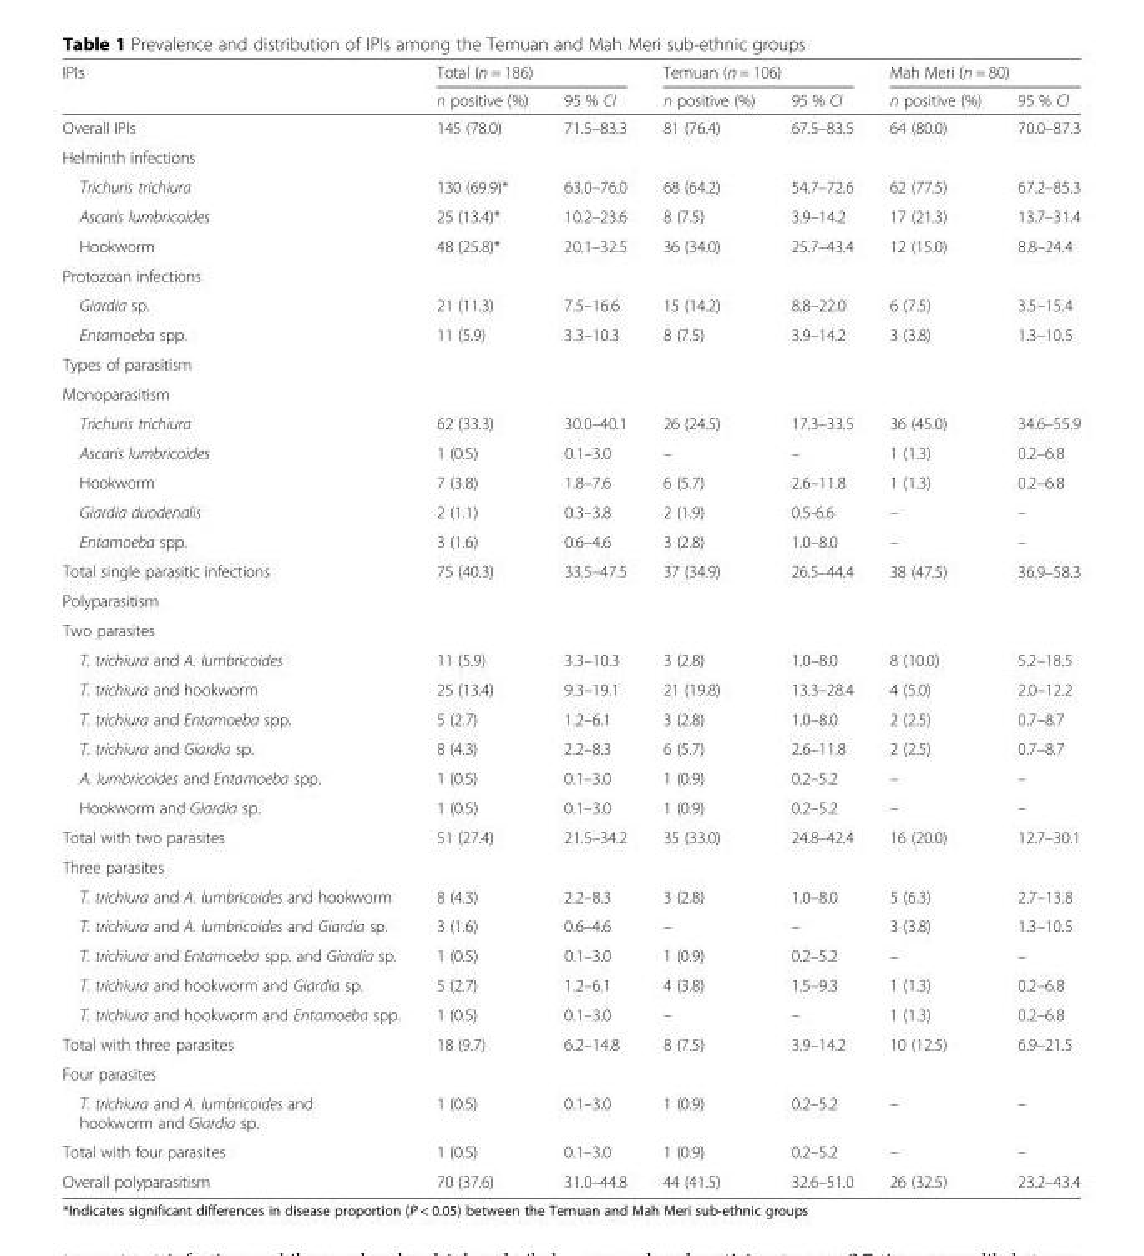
<table><thead><tr><td rowspan="2">IPIs</td><td colspan="2">Total (n = 186)</td><td colspan="2">Temuan (n = 106)</td><td colspan="2">Mah Meri (n = 80)</td></tr><tr><td>n positive (%)</td><td>95 % CI</td><td>n positive (%)</td><td>95 % CI</td><td>n positive (%)</td><td>95 % CI</td></tr></thead><tbody><tr><td>Overall IPIs</td><td>145 (78.0)</td><td>71.5–83.3</td><td>81 (76.4)</td><td>67.5–83.5</td><td>64 (80.0)</td><td>70.0–87.3</td></tr><tr><td colspan="7">Helminth infections</td></tr><tr><td>Trichuris trichiura</td><td>130 (69.9)*</td><td>63.0–76.0</td><td>68 (64.2)</td><td>54.7–72.6</td><td>62 (77.5)</td><td>67.2–85.3</td></tr><tr><td>Ascaris lumbricoides</td><td>25 (13.4)*</td><td>10.2–23.6</td><td>8 (7.5)</td><td>3.9–14.2</td><td>17 (21.3)</td><td>13.7–31.4</td></tr><tr><td>Hookworm</td><td>48 (25.8)*</td><td>20.1–32.5</td><td>36 (34.0)</td><td>25.7–43.4</td><td>12 (15.0)</td><td>8.8–24.4</td></tr><tr><td colspan="7">Protozoan infections</td></tr><tr><td>Giardia sp.</td><td>21 (11.3)</td><td>7.5–16.6</td><td>15 (14.2)</td><td>8.8–22.0</td><td>6 (7.5)</td><td>3.5–15.4</td></tr><tr><td>Entamoeba spp.</td><td>11 (5.9)</td><td>3.3–10.3</td><td>8 (7.5)</td><td>3.9–14.2</td><td>3 (3.8)</td><td>1.3–10.5</td></tr><tr><td colspan="7">Types of parasitism</td></tr><tr><td colspan="7">Monoparasitism</td></tr><tr><td>Trichuris trichiura</td><td>62 (33.3)</td><td>30.0–40.1</td><td>26 (24.5)</td><td>17.3–33.5</td><td>36 (45.0)</td><td>34.6–55.9</td></tr><tr><td>Ascaris lumbricoides</td><td>1 (0.5)</td><td>0.1–3.0</td><td>–</td><td>–</td><td>1 (1.3)</td><td>0.2–6.8</td></tr><tr><td>Hookworm</td><td>7 (3.8)</td><td>1.8–7.6</td><td>6 (5.7)</td><td>2.6–11.8</td><td>1 (1.3)</td><td>0.2–6.8</td></tr><tr><td>Giardia duodenalis</td><td>2 (1.1)</td><td>0.3–3.8</td><td>2 (1.9)</td><td>0.5-6.6</td><td>–</td><td>–</td></tr><tr><td>Entamoeba spp.</td><td>3 (1.6)</td><td>0.6–4.6</td><td>3 (2.8)</td><td>1.0–8.0</td><td>–</td><td>–</td></tr><tr><td>Total single parasitic infections</td><td>75 (40.3)</td><td>33.5–47.5</td><td>37 (34.9)</td><td>26.5–44.4</td><td>38 (47.5)</td><td>36.9–58.3</td></tr><tr><td colspan="7">Polyparasitism</td></tr><tr><td colspan="7">Two parasites</td></tr><tr><td>T. trichiura and A. lumbricoides</td><td>11 (5.9)</td><td>3.3–10.3</td><td>3 (2.8)</td><td>1.0–8.0</td><td>8 (10.0)</td><td>5.2–18.5</td></tr><tr><td>T. trichiura and hookworm</td><td>25 (13.4)</td><td>9.3–19.1</td><td>21 (19.8)</td><td>13.3–28.4</td><td>4 (5.0)</td><td>2.0–12.2</td></tr><tr><td>T. trichiura and Entamoeba spp.</td><td>5 (2.7)</td><td>1.2–6.1</td><td>3 (2.8)</td><td>1.0–8.0</td><td>2 (2.5)</td><td>0.7–8.7</td></tr><tr><td>T. trichiura and Giardia sp.</td><td>8 (4.3)</td><td>2.2–8.3</td><td>6 (5.7)</td><td>2.6–11.8</td><td>2 (2.5)</td><td>0.7–8.7</td></tr><tr><td>A. lumbricoides and Entamoeba spp.</td><td>1 (0.5)</td><td>0.1–3.0</td><td>1 (0.9)</td><td>0.2–5.2</td><td>–</td><td>–</td></tr><tr><td>Hookworm and Giardia sp.</td><td>1 (0.5)</td><td>0.1–3.0</td><td>1 (0.9)</td><td>0.2–5.2</td><td>–</td><td>–</td></tr><tr><td>Total with two parasites</td><td>51 (27.4)</td><td>21.5–34.2</td><td>35 (33.0)</td><td>24.8–42.4</td><td>16 (20.0)</td><td>12.7–30.1</td></tr><tr><td colspan="7">Three parasites</td></tr><tr><td>T. trichiura and A. lumbricoides and hookworm</td><td>8 (4.3)</td><td>2.2–8.3</td><td>3 (2.8)</td><td>1.0–8.0</td><td>5 (6.3)</td><td>2.7–13.8</td></tr><tr><td>T. trichiura and A. lumbricoides and Giardia sp.</td><td>3 (1.6)</td><td>0.6–4.6</td><td>–</td><td>–</td><td>3 (3.8)</td><td>1.3–10.5</td></tr><tr><td>T. trichiura and Entamoeba spp. and Giardia sp.</td><td>1 (0.5)</td><td>0.1–3.0</td><td>1 (0.9)</td><td>0.2–5.2</td><td>–</td><td>–</td></tr><tr><td>T. trichiura and hookworm and Giardia sp.</td><td>5 (2.7)</td><td>1.2–6.1</td><td>4 (3.8)</td><td>1.5–9.3</td><td>1 (1.3)</td><td>0.2–6.8</td></tr><tr><td>T. trichiura and hookworm and Entamoeba spp.</td><td>1 (0.5)</td><td>0.1–3.0</td><td>–</td><td>–</td><td>1 (1.3)</td><td>0.2–6.8</td></tr><tr><td>Total with three parasites</td><td>18 (9.7)</td><td>6.2–14.8</td><td>8 (7.5)</td><td>3.9–14.2</td><td>10 (12.5)</td><td>6.9–21.5</td></tr><tr><td colspan="7">Four parasites</td></tr><tr><td>T. trichiura and A. lumbricoides and hookworm and Giardia sp.</td><td>1 (0.5)</td><td>0.1–3.0</td><td>1 (0.9)</td><td>0.2–5.2</td><td>–</td><td>–</td></tr><tr><td>Total with four parasites</td><td>1 (0.5)</td><td>0.1–3.0</td><td>1 (0.9)</td><td>0.2–5.2</td><td>–</td><td>–</td></tr><tr><td>Overall polyparasitism</td><td>70 (37.6)</td><td>31.0–44.8</td><td>44 (41.5)</td><td>32.6–51.0</td><td>26 (32.5)</td><td>23.2–43.4</td></tr></tbody></table>